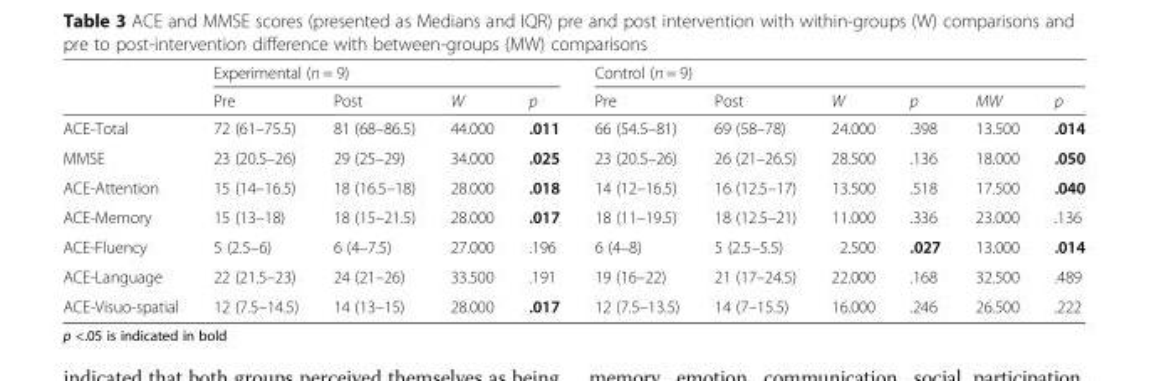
<table><thead><tr><td rowspan="2"></td><td colspan="4">Experimental (n = 9)</td><td colspan="6">Control (n = 9)</td></tr><tr><td>Pre</td><td>Post</td><td>W</td><td>p</td><td>Pre</td><td>Post</td><td>W</td><td>p</td><td>MW</td><td>p</td></tr></thead><tbody><tr><td>ACE-Total</td><td>72 (61–75.5)</td><td>81 (68–86.5)</td><td>44.000</td><td>.011</td><td>66 (54.5–81)</td><td>69 (58–78)</td><td>24.000</td><td>.398</td><td>13.500</td><td>.014</td></tr><tr><td>MMSE</td><td>23 (20.5–26)</td><td>29 (25–29)</td><td>34.000</td><td>.025</td><td>23 (20.5–26)</td><td>26 (21–26.5)</td><td>28.500</td><td>.136</td><td>18.000</td><td>.050</td></tr><tr><td>ACE-Attention</td><td>15 (14–16.5)</td><td>18 (16.5–18)</td><td>28.000</td><td>.018</td><td>14 (12–16.5)</td><td>16 (12.5–17)</td><td>13.500</td><td>.518</td><td>17.500</td><td>.040</td></tr><tr><td>ACE-Memory</td><td>15 (13–18)</td><td>18 (15–21.5)</td><td>28.000</td><td>.017</td><td>18 (11–19.5)</td><td>18 (12.5–21)</td><td>11.000</td><td>.336</td><td>23.000</td><td>.136</td></tr><tr><td>ACE-Fluency</td><td>5 (2.5–6)</td><td>6 (4–7.5)</td><td>27.000</td><td>.196</td><td>6 (4–8)</td><td>5 (2.5–5.5)</td><td>2.500</td><td>.027</td><td>13.000</td><td>.014</td></tr><tr><td>ACE-Language</td><td>22 (21.5–23)</td><td>24 (21–26)</td><td>33.500</td><td>.191</td><td>19 (16–22)</td><td>21 (17–24.5)</td><td>22.000</td><td>.168</td><td>32.500</td><td>.489</td></tr><tr><td>ACE-Visuo-spatial</td><td>12 (7.5–14.5)</td><td>14 (13–15)</td><td>28.000</td><td>.017</td><td>12 (7.5–13.5)</td><td>14 (7–15.5)</td><td>16.000</td><td>.246</td><td>26.500</td><td>.222</td></tr></tbody></table>